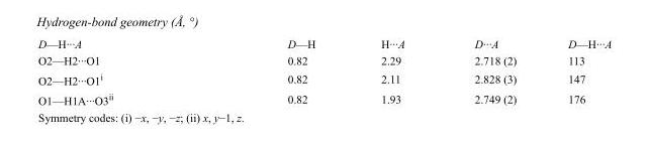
<table><tbody><tr><td>D—H···A</td><td>D—H</td><td>H···A</td><td>D···A</td><td>D—H···A</td></tr><tr><td>O2—H2···O1</td><td>0.82</td><td>2.29</td><td>2.718 (2)</td><td>113</td></tr><tr><td>O2—H2···O1<sup>i</sup></td><td>0.82</td><td>2.11</td><td>2.828 (3)</td><td>147</td></tr><tr><td>O1—H1A···O3<sup>ii</sup></td><td>0.82</td><td>1.93</td><td>2.749 (2)</td><td>176</td></tr></tbody></table>